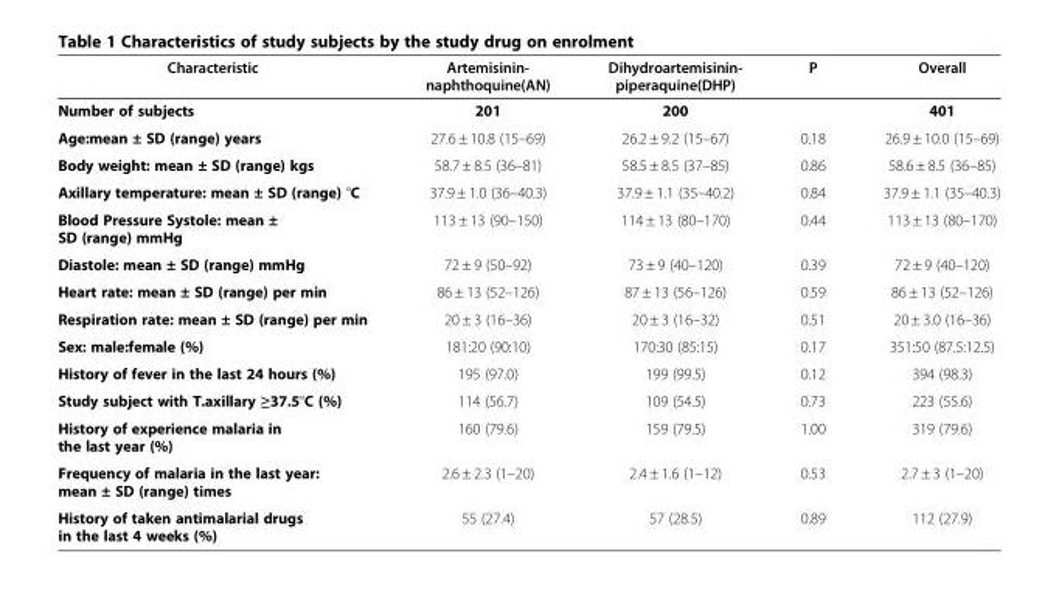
<table><thead><tr><td>Characteristic</td><td>Artemisinin- naphthoquine(AN)</td><td>Dihydroartemisinin- piperaquine(DHP)</td><td>P</td><td>Overall</td></tr></thead><tbody><tr><td>Number of subjects</td><td>201</td><td>200</td><td></td><td>401</td></tr><tr><td>Age:mean ± SD (range) years</td><td>27.6 ± 10.8 (15–69)</td><td>26.2 ± 9.2 (15–67)</td><td>0.18</td><td>26.9 ± 10.0 (15–69)</td></tr><tr><td>Body weight: mean ± SD (range) kgs</td><td>58.7 ± 8.5 (36–81)</td><td>58.5 ± 8.5 (37–85)</td><td>0.86</td><td>58.6 ± 8.5 (36–85)</td></tr><tr><td>Axillary temperature: mean ± SD (range) °C</td><td>37.9 ± 1.0 (36–40.3)</td><td>37.9 ± 1.1 (35–40.2)</td><td>0.84</td><td>37.9 ± 1.1 (35–40.3)</td></tr><tr><td>Blood Pressure Systole: mean ± SD (range) mmHg</td><td>113 ± 13 (90–150)</td><td>114 ± 13 (80–170)</td><td>0.44</td><td>113 ± 13 (80–170)</td></tr><tr><td>Diastole: mean ± SD (range) mmHg</td><td>72 ± 9 (50–92)</td><td>73 ± 9 (40–120)</td><td>0.39</td><td>72 ± 9 (40–120)</td></tr><tr><td>Heart rate: mean ± SD (range) per min</td><td>86 ± 13 (52–126)</td><td>87 ± 13 (56–126)</td><td>0.59</td><td>86 ± 13 (52–126)</td></tr><tr><td>Respiration rate: mean ± SD (range) per min</td><td>20 ± 3 (16–36)</td><td>20 ± 3 (16–32)</td><td>0.51</td><td>20 ± 3.0 (16–36)</td></tr><tr><td>Sex: male:female (%)</td><td>181:20 (90:10)</td><td>170:30 (85:15)</td><td>0.17</td><td>351:50 (87.5:12.5)</td></tr><tr><td>History of fever in the last 24 hours (%)</td><td>195 (97.0)</td><td>199 (99.5)</td><td>0.12</td><td>394 (98.3)</td></tr><tr><td>Study subject with T.axillary ≥37.5°C (%)</td><td>114 (56.7)</td><td>109 (54.5)</td><td>0.73</td><td>223 (55.6)</td></tr><tr><td>History of experience malaria in the last year (%)</td><td>160 (79.6)</td><td>159 (79.5)</td><td>1.00</td><td>319 (79.6)</td></tr><tr><td>Frequency of malaria in the last year: mean ± SD (range) times</td><td>2.6 ± 2.3 (1–20)</td><td>2.4 ± 1.6 (1–12)</td><td>0.53</td><td>2.7 ± 3 (1–20)</td></tr><tr><td>History of taken antimalarial drugs in the last 4 weeks (%)</td><td>55 (27.4)</td><td>57 (28.5)</td><td>0.89</td><td>112 (27.9)</td></tr></tbody></table>